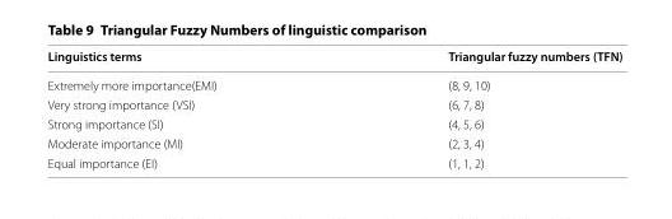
<table><thead><tr><td>Linguistics terms</td><td>Triangular fuzzy numbers (TFN)</td></tr></thead><tbody><tr><td>Extremely more importance(EMI)</td><td>(8, 9, 10)</td></tr><tr><td>Very strong importance (VSI)</td><td>(6, 7, 8)</td></tr><tr><td>Strong importance (SI)</td><td>(4, 5, 6)</td></tr><tr><td>Moderate importance (MI)</td><td>(2, 3, 4)</td></tr><tr><td>Equal importance (EI)</td><td>(1, 1, 2)</td></tr></tbody></table>